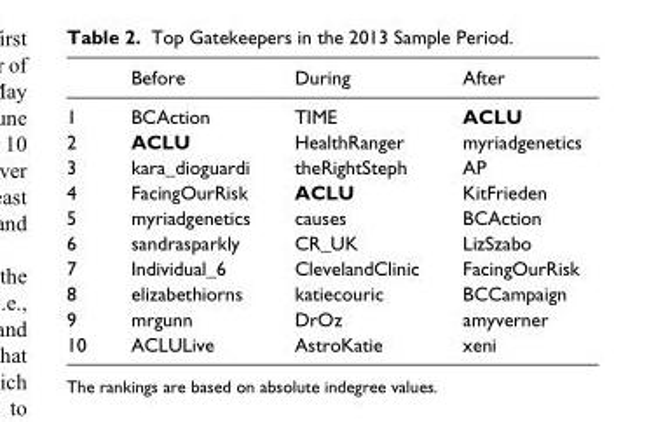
<table><thead><tr><td></td><td>Before</td><td>During</td><td>After</td></tr></thead><tbody><tr><td>1</td><td>BCAction</td><td>TIME</td><td>ACLU</td></tr><tr><td>2</td><td>ACLU</td><td>HealthRanger</td><td>myriadgenetics</td></tr><tr><td>3</td><td>kara_dioguardi</td><td>theRightSteph</td><td>AP</td></tr><tr><td>4</td><td>FacingOurRisk</td><td>ACLU</td><td>KitFrieden</td></tr><tr><td>5</td><td>myriadgenetics</td><td>causes</td><td>BCAction</td></tr><tr><td>6</td><td>sandrasparkly</td><td>CR_UK</td><td>LizSzabo</td></tr><tr><td>7</td><td>Individual_6</td><td>ClevelandClinic</td><td>FacingOurRisk</td></tr><tr><td>8</td><td>elizabethiorns</td><td>katiecouric</td><td>BCCampaign</td></tr><tr><td>9</td><td>mrgunn</td><td>DrOz</td><td>amyverner</td></tr><tr><td>10</td><td>ACLULive</td><td>AstroKatie</td><td>xeni</td></tr></tbody></table>